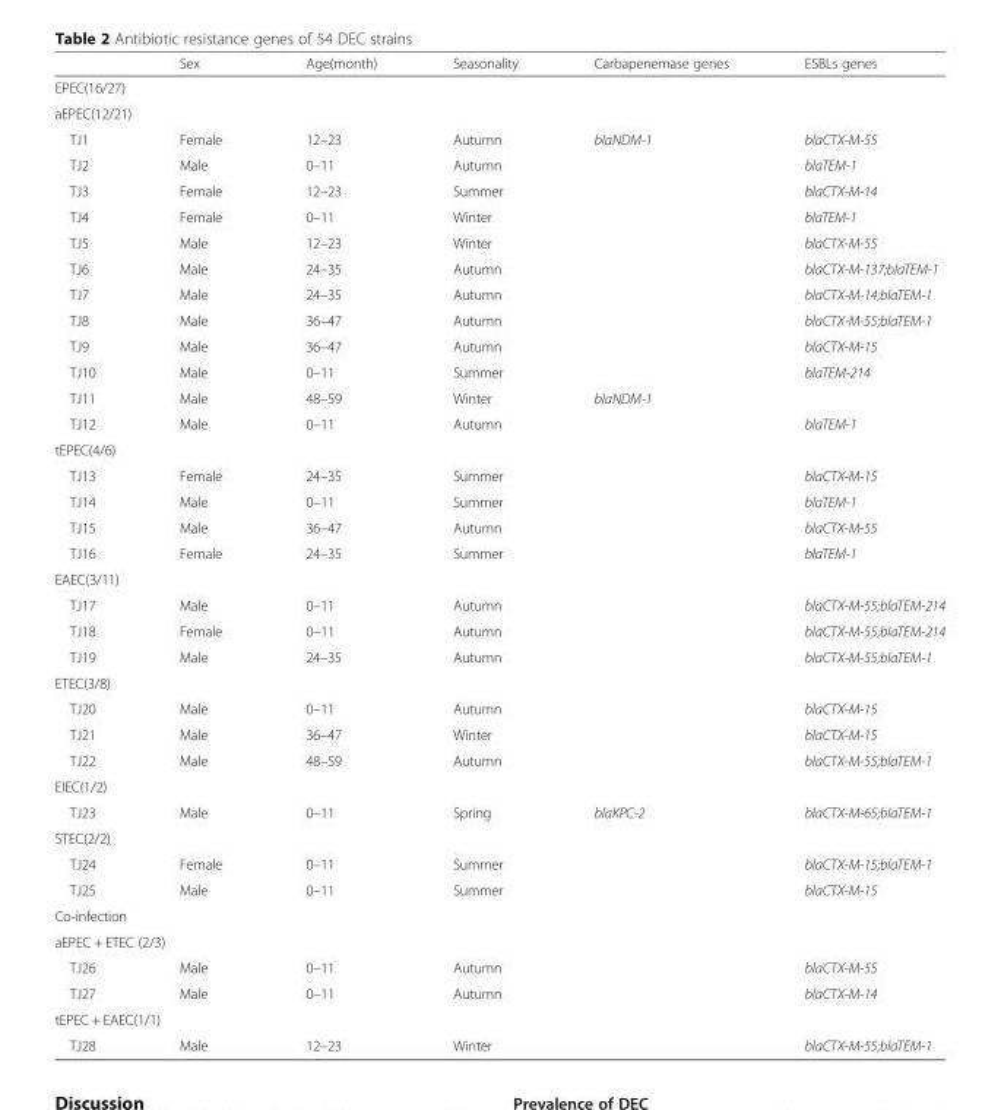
<table><thead><tr><td></td><td>Sex</td><td>Age(month)</td><td>Seasonality</td><td>Carbapenemase genes</td><td>ESBLs genes</td></tr></thead><tbody><tr><td colspan="6">EPEC(16/27)</td></tr><tr><td colspan="6">aEPEC(12/21)</td></tr><tr><td>TJ1</td><td>Female</td><td>12–23</td><td>Autumn</td><td>blaNDM-1</td><td>blaCTX-M-55</td></tr><tr><td>TJ2</td><td>Male</td><td>0–11</td><td>Autumn</td><td></td><td>blaTEM-1</td></tr><tr><td>TJ3</td><td>Female</td><td>12–23</td><td>Summer</td><td></td><td>blaCTX-M-14</td></tr><tr><td>TJ4</td><td>Female</td><td>0–11</td><td>Winter</td><td></td><td>blaTEM-1</td></tr><tr><td>TJ5</td><td>Male</td><td>12–23</td><td>Winter</td><td></td><td>blaCTX-M-55</td></tr><tr><td>TJ6</td><td>Male</td><td>24–35</td><td>Autumn</td><td></td><td>blaCTX-M-137;blaTEM-1</td></tr><tr><td>TJ7</td><td>Male</td><td>24–35</td><td>Autumn</td><td></td><td>blaCTX-M-14;blaTEM-1</td></tr><tr><td>TJ8</td><td>Male</td><td>36–47</td><td>Autumn</td><td></td><td>blaCTX-M-55;blaTEM-1</td></tr><tr><td>TJ9</td><td>Male</td><td>36–47</td><td>Autumn</td><td></td><td>blaCTX-M-15</td></tr><tr><td>TJ10</td><td>Male</td><td>0–11</td><td>Summer</td><td></td><td>blaTEM-214</td></tr><tr><td>TJ11</td><td>Male</td><td>48–59</td><td>Winter</td><td>blaNDM-1</td><td></td></tr><tr><td>TJ12</td><td>Male</td><td>0–11</td><td>Autumn</td><td></td><td>blaTEM-1</td></tr><tr><td colspan="6">tEPEC(4/6)</td></tr><tr><td>TJ13</td><td>Female</td><td>24–35</td><td>Summer</td><td></td><td>blaCTX-M-15</td></tr><tr><td>TJ14</td><td>Male</td><td>0–11</td><td>Summer</td><td></td><td>blaTEM-1</td></tr><tr><td>TJ15</td><td>Male</td><td>36–47</td><td>Autumn</td><td></td><td>blaCTX-M-55</td></tr><tr><td>TJ16</td><td>Female</td><td>24–35</td><td>Summer</td><td></td><td>blaTEM-1</td></tr><tr><td colspan="6">EAEC(3/11)</td></tr><tr><td>TJ17</td><td>Male</td><td>0–11</td><td>Autumn</td><td></td><td>blaCTX-M-55;blaTEM-214</td></tr><tr><td>TJ18</td><td>Female</td><td>0–11</td><td>Autumn</td><td></td><td>blaCTX-M-55;blaTEM-214</td></tr><tr><td>TJ19</td><td>Male</td><td>24–35</td><td>Autumn</td><td></td><td>blaCTX-M-55;blaTEM-1</td></tr><tr><td colspan="6">ETEC(3/8)</td></tr><tr><td>TJ20</td><td>Male</td><td>0–11</td><td>Autumn</td><td></td><td>blaCTX-M-15</td></tr><tr><td>TJ21</td><td>Male</td><td>36–47</td><td>Winter</td><td></td><td>blaCTX-M-15</td></tr><tr><td>TJ22</td><td>Male</td><td>48–59</td><td>Autumn</td><td></td><td>blaCTX-M-55;blaTEM-1</td></tr><tr><td colspan="6">EIEC(1/2)</td></tr><tr><td>TJ23</td><td>Male</td><td>0–11</td><td>Spring</td><td>blaKPC-2</td><td>blaCTX-M-65;blaTEM-1</td></tr><tr><td colspan="6">STEC(2/2)</td></tr><tr><td>TJ24</td><td>Female</td><td>0–11</td><td>Summer</td><td></td><td>blaCTX-M-15;blaTEM-1</td></tr><tr><td>TJ25</td><td>Male</td><td>0–11</td><td>Summer</td><td></td><td>blaCTX-M-15</td></tr><tr><td colspan="6">Co-infection</td></tr><tr><td colspan="6">aEPEC + ETEC (2/3)</td></tr><tr><td>TJ26</td><td>Male</td><td>0–11</td><td>Autumn</td><td></td><td>blaCTX-M-55</td></tr><tr><td>TJ27</td><td>Male</td><td>0–11</td><td>Autumn</td><td></td><td>blaCTX-M-14</td></tr><tr><td colspan="6">tEPEC + EAEC(1/1)</td></tr><tr><td>TJ28</td><td>Male</td><td>12–23</td><td>Winter</td><td></td><td>blaCTX-M-55;blaTEM-1</td></tr></tbody></table>